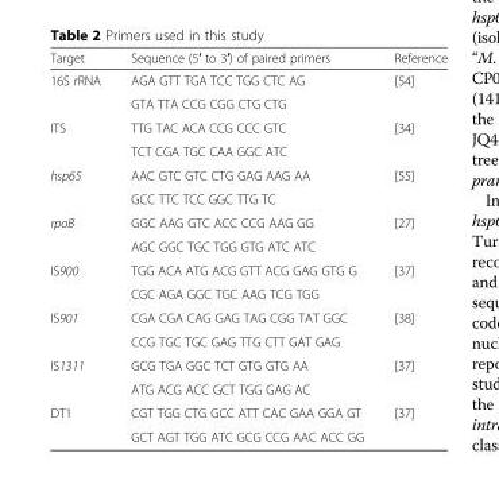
<table><thead><tr><td>Target</td><td>Sequence (5′ to 3′) of paired primers</td><td>Reference</td></tr></thead><tbody><tr><td rowspan="2">16S rRNA</td><td>AGA GTT TGA TCC TGG CTC AG</td><td rowspan="2">[54]</td></tr><tr><td>GTA TTA CCG CGG CTG CTG</td></tr><tr><td rowspan="2">ITS</td><td>TTG TAC ACA CCG CCC GTC</td><td rowspan="2">[34]</td></tr><tr><td>TCT CGA TGC CAA GGC ATC</td></tr><tr><td rowspan="2">hsp65</td><td>AAC GTC GTC CTG GAG AAG AA</td><td rowspan="2">[55]</td></tr><tr><td>GCC TTC TCC GGC TTG TC</td></tr><tr><td rowspan="2">rpoB</td><td>GGC AAG GTC ACC CCG AAG GG</td><td rowspan="2">[27]</td></tr><tr><td>AGC GGC TGC TGG GTG ATC ATC</td></tr><tr><td rowspan="2">IS900</td><td>TGG ACA ATG ACG GTT ACG GAG GTG G</td><td rowspan="2">[37]</td></tr><tr><td>CGC AGA GGC TGC AAG TCG TGG</td></tr><tr><td rowspan="2">IS901</td><td>CGA CGA CAG GAG TAG CGG TAT GGC</td><td rowspan="2">[38]</td></tr><tr><td>CCG TGC TGC GAG TTG CTT GAT GAG</td></tr><tr><td rowspan="2">IS1311</td><td>GCG TGA GGC TCT GTG GTG AA</td><td rowspan="2">[37]</td></tr><tr><td>ATG ACG ACC GCT TGG GAG AC</td></tr><tr><td rowspan="2">DT1</td><td>CGT TGG CTG GCC ATT CAC GAA GGA GT</td><td rowspan="2">[37]</td></tr><tr><td>GCT AGT TGG ATC GCG CCG AAC ACC GG</td></tr></tbody></table>